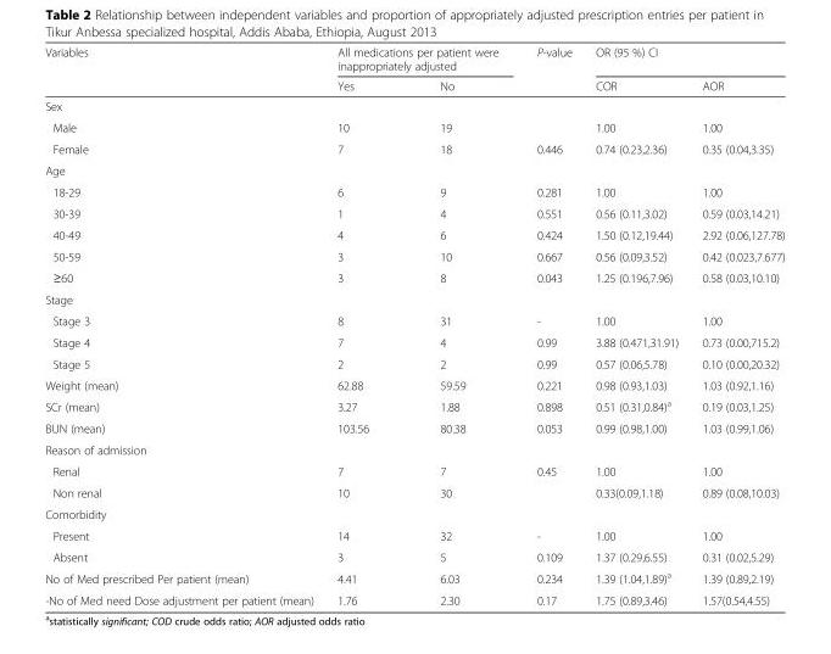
<table><thead><tr><td rowspan="2">Variables</td><td colspan="2">All medications per patient were inappropriately adjusted</td><td rowspan="2">P-value</td><td colspan="2">OR (95 %) CI</td></tr><tr><td>Yes</td><td>No</td><td>COR</td><td>AOR</td></tr></thead><tbody><tr><td colspan="6">Sex</td></tr><tr><td>Male</td><td>10</td><td>19</td><td></td><td>1.00</td><td>1.00</td></tr><tr><td>Female</td><td>7</td><td>18</td><td>0.446</td><td>0.74 (0.23,2.36)</td><td>0.35 (0.04,3.35)</td></tr><tr><td colspan="6">Age</td></tr><tr><td>18-29</td><td>6</td><td>9</td><td>0.281</td><td>1.00</td><td>1.00</td></tr><tr><td>30-39</td><td>1</td><td>4</td><td>0.551</td><td>0.56 (0.11,3.02)</td><td>0.59 (0.03,14.21)</td></tr><tr><td>40-49</td><td>4</td><td>6</td><td>0.424</td><td>1.50 (0.12,19.44)</td><td>2.92 (0.06,127.78)</td></tr><tr><td>50-59</td><td>3</td><td>10</td><td>0.667</td><td>0.56 (0.09,3.52)</td><td>0.42 (0.023,7.677)</td></tr><tr><td>≥60</td><td>3</td><td>8</td><td>0.043</td><td>1.25 (0.196,7.96)</td><td>0.58 (0.03,10.10)</td></tr><tr><td colspan="6">Stage</td></tr><tr><td>Stage 3</td><td>8</td><td>31</td><td>-</td><td>1.00</td><td>1.00</td></tr><tr><td>Stage 4</td><td>7</td><td>4</td><td>0.99</td><td>3.88 (0.471,31.91)</td><td>0.73 (0.00,715.2)</td></tr><tr><td>Stage 5</td><td>2</td><td>2</td><td>0.99</td><td>0.57 (0.06,5.78)</td><td>0.10 (0.00,20.32)</td></tr><tr><td>Weight (mean)</td><td>62.88</td><td>59.59</td><td>0.221</td><td>0.98 (0.93,1.03)</td><td>1.03 (0.92,1.16)</td></tr><tr><td>SCr (mean)</td><td>3.27</td><td>1.88</td><td>0.898</td><td>0.51 (0.31,0.84)<sup>a</sup></td><td>0.19 (0.03,1.25)</td></tr><tr><td>BUN (mean)</td><td>103.56</td><td>80.38</td><td>0.053</td><td>0.99 (0.98,1.00)</td><td>1.03 (0.99,1.06)</td></tr><tr><td colspan="6">Reason of admission</td></tr><tr><td>Renal</td><td>7</td><td>7</td><td>0.45</td><td>1.00</td><td>1.00</td></tr><tr><td>Non renal</td><td>10</td><td>30</td><td></td><td>0.33(0.09,1.18)</td><td>0.89 (0.08,10.03)</td></tr><tr><td colspan="6">Comorbidity</td></tr><tr><td>Present</td><td>14</td><td>32</td><td>-</td><td>1.00</td><td>1.00</td></tr><tr><td>Absent</td><td>3</td><td>5</td><td>0.109</td><td>1.37 (0.29,6.55)</td><td>0.31 (0.02,5.29)</td></tr><tr><td>No of Med prescribed Per patient (mean)</td><td>4.41</td><td>6.03</td><td>0.234</td><td>1.39 (1.04,1.89)<sup>a</sup></td><td>1.39 (0.89,2.19)</td></tr><tr><td>-No of Med need Dose adjustment per patient (mean)</td><td>1.76</td><td>2.30</td><td>0.17</td><td>1.75 (0.89,3.46)</td><td>1.57(0.54,4.55)</td></tr></tbody></table>